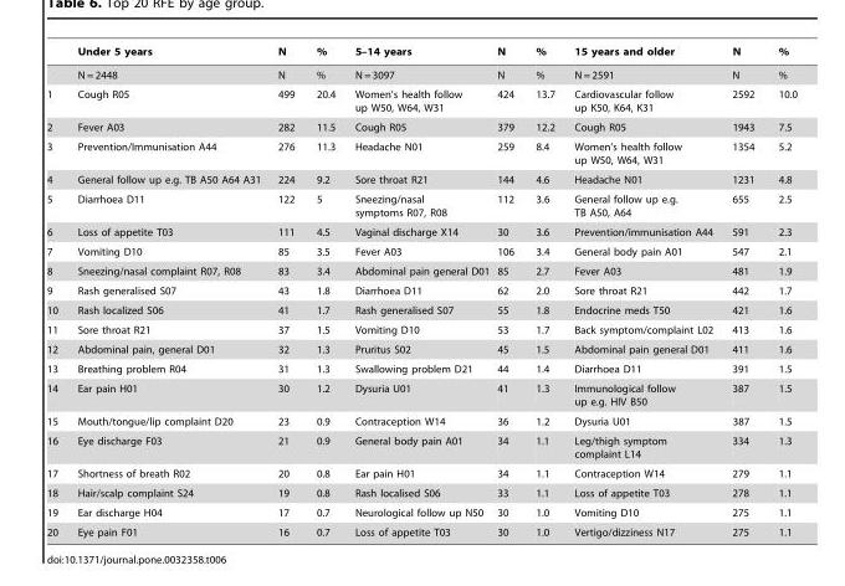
<table><thead><tr><td></td><td>Under 5 years</td><td>N</td><td>%</td><td>5–14 years</td><td>N</td><td>%</td><td>15 years and older</td><td>N</td><td>%</td></tr></thead><tbody><tr><td></td><td>N = 2448</td><td>N</td><td>%</td><td>N = 3097</td><td>N</td><td>%</td><td>N = 2591</td><td>N</td><td>%</td></tr><tr><td>1</td><td>Cough R05</td><td>499</td><td>20.4</td><td>Women’s health follow up W50, W64, W31</td><td>424</td><td>13.7</td><td>Cardiovascular follow up K50, K64, K31</td><td>2592</td><td>10.0</td></tr><tr><td>2</td><td>Fever A03</td><td>282</td><td>11.5</td><td>Cough R05</td><td>379</td><td>12.2</td><td>Cough R05</td><td>1943</td><td>7.5</td></tr><tr><td>3</td><td>Prevention/Immunisation A44</td><td>276</td><td>11.3</td><td>Headache N01</td><td>259</td><td>8.4</td><td>Women’s health follow up W50, W64, W31</td><td>1354</td><td>5.2</td></tr><tr><td>4</td><td>General follow up e.g. TB A50 A64 A31</td><td>224</td><td>9.2</td><td>Sore throat R21</td><td>144</td><td>4.6</td><td>Headache N01</td><td>1231</td><td>4.8</td></tr><tr><td>5</td><td>Diarrhoea D11</td><td>122</td><td>5</td><td>Sneezing/nasal symptoms R07, R08</td><td>112</td><td>3.6</td><td>General follow up e.g. TB A50, A64</td><td>655</td><td>2.5</td></tr><tr><td>6</td><td>Loss of appetite T03</td><td>111</td><td>4.5</td><td>Vaginal discharge X14</td><td>30</td><td>3.6</td><td>Prevention/immunisation A44</td><td>591</td><td>2.3</td></tr><tr><td>7</td><td>Vomiting D10</td><td>85</td><td>3.5</td><td>Fever A03</td><td>106</td><td>3.4</td><td>General body pain A01</td><td>547</td><td>2.1</td></tr><tr><td>8</td><td>Sneezing/nasal complaint R07, R08</td><td>83</td><td>3.4</td><td>Abdominal pain general D01</td><td>85</td><td>2.7</td><td>Fever A03</td><td>481</td><td>1.9</td></tr><tr><td>9</td><td>Rash generalised S07</td><td>43</td><td>1.8</td><td>Diarrhoea D11</td><td>62</td><td>2.0</td><td>Sore throat R21</td><td>442</td><td>1.7</td></tr><tr><td>10</td><td>Rash localized S06</td><td>41</td><td>1.7</td><td>Rash generalised S07</td><td>55</td><td>1.8</td><td>Endocrine meds T50</td><td>421</td><td>1.6</td></tr><tr><td>11</td><td>Sore throat R21</td><td>37</td><td>1.5</td><td>Vomiting D10</td><td>53</td><td>1.7</td><td>Back symptom/complaint L02</td><td>413</td><td>1.6</td></tr><tr><td>12</td><td>Abdominal pain, general D01</td><td>32</td><td>1.3</td><td>Pruritus S02</td><td>45</td><td>1.5</td><td>Abdominal pain general D01</td><td>411</td><td>1.6</td></tr><tr><td>13</td><td>Breathing problem R04</td><td>31</td><td>1.3</td><td>Swallowing problem D21</td><td>44</td><td>1.4</td><td>Diarrhoea D11</td><td>391</td><td>1.5</td></tr><tr><td>14</td><td>Ear pain H01</td><td>30</td><td>1.2</td><td>Dysuria U01</td><td>41</td><td>1.3</td><td>Immunological follow up e.g. HIV B50</td><td>387</td><td>1.5</td></tr><tr><td>15</td><td>Mouth/tongue/lip complaint D20</td><td>23</td><td>0.9</td><td>Contraception W14</td><td>36</td><td>1.2</td><td>Dysuria U01</td><td>387</td><td>1.5</td></tr><tr><td>16</td><td>Eye discharge F03</td><td>21</td><td>0.9</td><td>General body pain A01</td><td>34</td><td>1.1</td><td>Leg/thigh symptom complaint L14</td><td>334</td><td>1.3</td></tr><tr><td>17</td><td>Shortness of breath R02</td><td>20</td><td>0.8</td><td>Ear pain H01</td><td>34</td><td>1.1</td><td>Contraception W14</td><td>279</td><td>1.1</td></tr><tr><td>18</td><td>Hair/scalp complaint S24</td><td>19</td><td>0.8</td><td>Rash localised S06</td><td>33</td><td>1.1</td><td>Loss of appetite T03</td><td>278</td><td>1.1</td></tr><tr><td>19</td><td>Ear discharge H04</td><td>17</td><td>0.7</td><td>Neurological follow up N50</td><td>30</td><td>1.0</td><td>Vomiting D10</td><td>275</td><td>1.1</td></tr><tr><td>20</td><td>Eye pain F01</td><td>16</td><td>0.7</td><td>Loss of appetite T03</td><td>30</td><td>1.0</td><td>Vertigo/dizziness N17</td><td>275</td><td>1.1</td></tr></tbody></table>